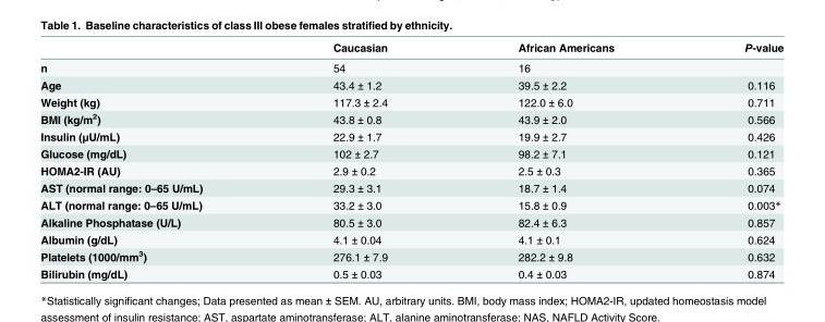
<table><thead><tr><td></td><td>Caucasian</td><td>African Americans</td><td>P-value</td></tr></thead><tbody><tr><td>n</td><td>54</td><td>16</td><td></td></tr><tr><td>Age</td><td>43.4 ± 1.2</td><td>39.5 ± 2.2</td><td>0.116</td></tr><tr><td>Weight (kg)</td><td>117.3 ± 2.4</td><td>122.0 ± 6.0</td><td>0.711</td></tr><tr><td>BMI (kg/m<sup>2</sup>)</td><td>43.8 ± 0.8</td><td>43.9 ± 2.0</td><td>0.566</td></tr><tr><td>Insulin (μU/mL)</td><td>22.9 ± 1.7</td><td>19.9 ± 2.7</td><td>0.426</td></tr><tr><td>Glucose (mg/dL)</td><td>102 ± 2.7</td><td>98.2 ± 7.1</td><td>0.121</td></tr><tr><td>HOMA2-IR (AU)</td><td>2.9 ± 0.2</td><td>2.5 ± 0.3</td><td>0.365</td></tr><tr><td>AST (normal range: 0–65 U/mL)</td><td>29.3 ± 3.1</td><td>18.7 ± 1.4</td><td>0.074</td></tr><tr><td>ALT (normal range: 0–65 U/mL)</td><td>33.2 ± 3.0</td><td>15.8 ± 0.9</td><td>0.003*</td></tr><tr><td>Alkaline Phosphatase (U/L)</td><td>80.5 ± 3.0</td><td>82.4 ± 6.3</td><td>0.857</td></tr><tr><td>Albumin (g/dL)</td><td>4.1 ± 0.04</td><td>4.1 ± 0.1</td><td>0.624</td></tr><tr><td>Platelets (1000/mm<sup>3</sup>)</td><td>276.1 ± 7.9</td><td>282.2 ± 9.8</td><td>0.632</td></tr><tr><td>Bilirubin (mg/dL)</td><td>0.5 ± 0.03</td><td>0.4 ± 0.03</td><td>0.874</td></tr></tbody></table>